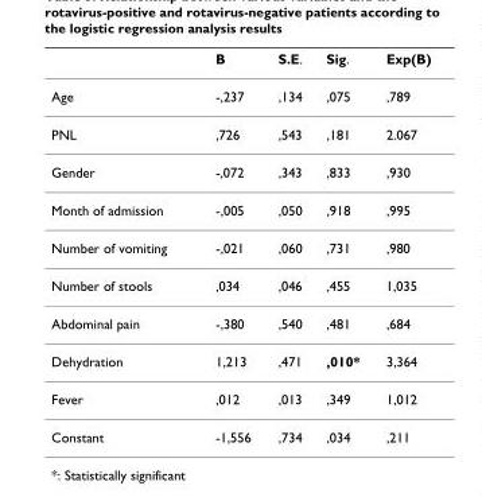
<table><thead><tr><td></td><td>B</td><td>S.E.</td><td>Sig.</td><td>Exp(B)</td></tr></thead><tbody><tr><td>Age</td><td>-,237</td><td>,134</td><td>,075</td><td>,789</td></tr><tr><td>PNL</td><td>,726</td><td>,543</td><td>,181</td><td>2.067</td></tr><tr><td>Gender</td><td>-,072</td><td>,343</td><td>,833</td><td>,930</td></tr><tr><td>Month of admission</td><td>-,005</td><td>,050</td><td>,918</td><td>,995</td></tr><tr><td>Number of vomiting</td><td>-,021</td><td>,060</td><td>,731</td><td>,980</td></tr><tr><td>Number of stools</td><td>,034</td><td>,046</td><td>,455</td><td>1,035</td></tr><tr><td>Abdominal pain</td><td>-,380</td><td>,540</td><td>,481</td><td>,684</td></tr><tr><td>Dehydration</td><td>1,213</td><td>,471</td><td>,010*</td><td>3,364</td></tr><tr><td>Fever</td><td>,012</td><td>,013</td><td>,349</td><td>1,012</td></tr><tr><td>Constant</td><td>-1,556</td><td>,734</td><td>,034</td><td>,211</td></tr></tbody></table>